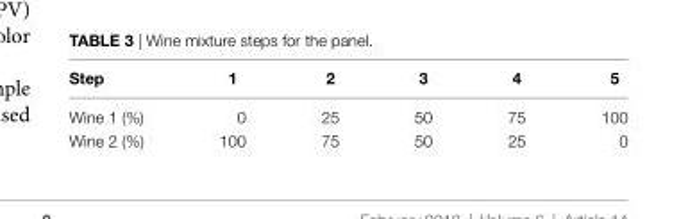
<table><thead><tr><td>step</td><td>1</td><td>2</td><td>3</td><td>4</td><td>5</td></tr></thead><tbody><tr><td>Wine 1 (%)</td><td>0</td><td>25</td><td>50</td><td>75</td><td>100</td></tr><tr><td>Wine 2 (%)</td><td>100</td><td>75</td><td>50</td><td>25</td><td>0</td></tr></tbody></table>